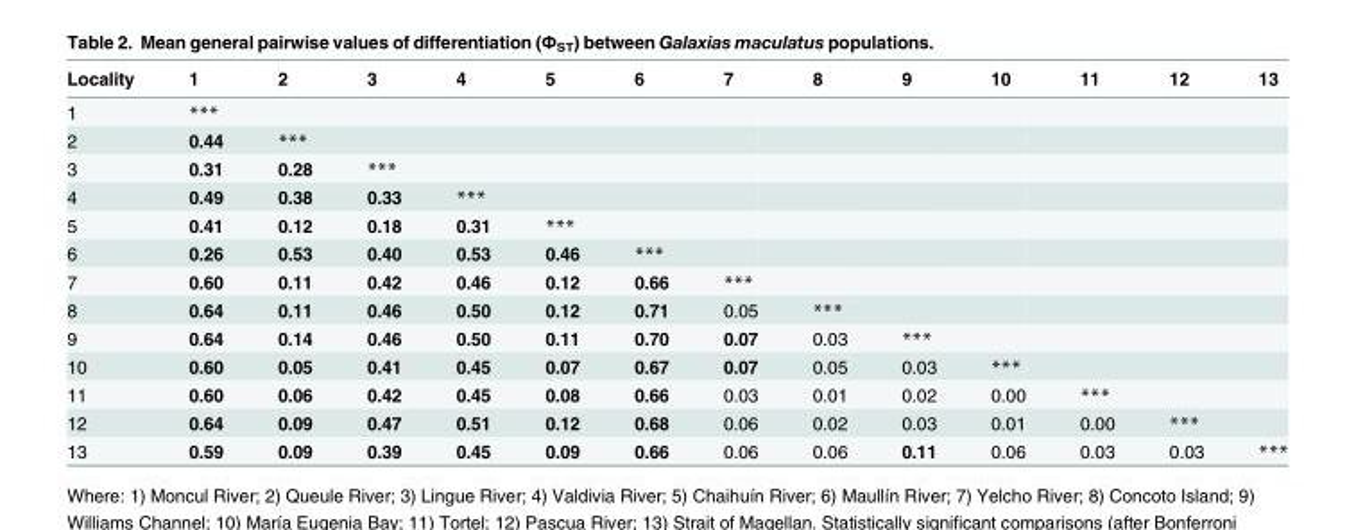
<table><thead><tr><td>Locality</td><td>1</td><td>2</td><td>3</td><td>4</td><td>5</td><td>6</td><td>7</td><td>8</td><td>9</td><td>10</td><td>11</td><td>12</td><td>13</td></tr></thead><tbody><tr><td>1</td><td>***</td><td></td><td></td><td></td><td></td><td></td><td></td><td></td><td></td><td></td><td></td><td></td><td></td></tr><tr><td>2</td><td>0.44</td><td>***</td><td></td><td></td><td></td><td></td><td></td><td></td><td></td><td></td><td></td><td></td><td></td></tr><tr><td>3</td><td>0.31</td><td>0.28</td><td>***</td><td></td><td></td><td></td><td></td><td></td><td></td><td></td><td></td><td></td><td></td></tr><tr><td>4</td><td>0.49</td><td>0.38</td><td>0.33</td><td>***</td><td></td><td></td><td></td><td></td><td></td><td></td><td></td><td></td><td></td></tr><tr><td>5</td><td>0.41</td><td>0.12</td><td>0.18</td><td>0.31</td><td>***</td><td></td><td></td><td></td><td></td><td></td><td></td><td></td><td></td></tr><tr><td>6</td><td>0.26</td><td>0.53</td><td>0.40</td><td>0.53</td><td>0.46</td><td>***</td><td></td><td></td><td></td><td></td><td></td><td></td><td></td></tr><tr><td>7</td><td>0.60</td><td>0.11</td><td>0.42</td><td>0.46</td><td>0.12</td><td>0.66</td><td>***</td><td></td><td></td><td></td><td></td><td></td><td></td></tr><tr><td>8</td><td>0.64</td><td>0.11</td><td>0.46</td><td>0.50</td><td>0.12</td><td>0.71</td><td>0.05</td><td>***</td><td></td><td></td><td></td><td></td><td></td></tr><tr><td>9</td><td>0.64</td><td>0.14</td><td>0.46</td><td>0.50</td><td>0.11</td><td>0.70</td><td>0.07</td><td>0.03</td><td>***</td><td></td><td></td><td></td><td></td></tr><tr><td>10</td><td>0.60</td><td>0.05</td><td>0.41</td><td>0.45</td><td>0.07</td><td>0.67</td><td>0.07</td><td>0.05</td><td>0.03</td><td>***</td><td></td><td></td><td></td></tr><tr><td>11</td><td>0.60</td><td>0.06</td><td>0.42</td><td>0.45</td><td>0.08</td><td>0.66</td><td>0.03</td><td>0.01</td><td>0.02</td><td>0.00</td><td>***</td><td></td><td></td></tr><tr><td>12</td><td>0.64</td><td>0.09</td><td>0.47</td><td>0.51</td><td>0.12</td><td>0.68</td><td>0.06</td><td>0.02</td><td>0.03</td><td>0.01</td><td>0.00</td><td>***</td><td></td></tr><tr><td>13</td><td>0.59</td><td>0.09</td><td>0.39</td><td>0.45</td><td>0.09</td><td>0.66</td><td>0.06</td><td>0.06</td><td>0.11</td><td>0.06</td><td>0.03</td><td>0.03</td><td>***</td></tr></tbody></table>